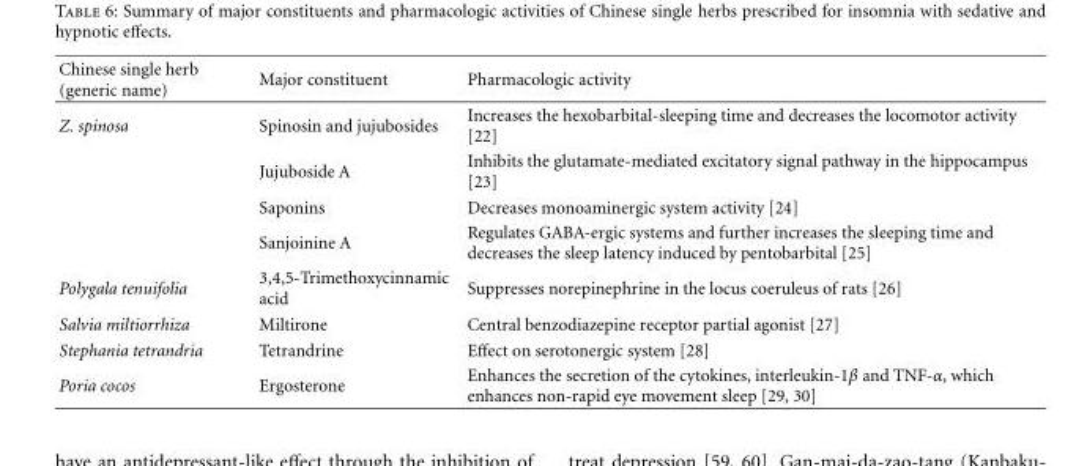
<table><thead><tr><td>Chinese single herb (generic name)</td><td>Major constituent</td><td>Pharmacologic activity</td></tr></thead><tbody><tr><td rowspan="4">Z. spinosa</td><td>Spinosin and jujubosides</td><td>Increases the hexobarbital-sleeping time and decreases the locomotor activity [22]</td></tr><tr><td>Jujuboside A</td><td>Inhibits the glutamate-mediated excitatory signal pathway in the hippocampus [23]</td></tr><tr><td>Saponins</td><td>Decreases monoaminergic system activity [24]</td></tr><tr><td>Sanjoinine A</td><td>Regulates GABA-ergic systems and further increases the sleeping time and decreases the sleep latency induced by pentobarbital [25]</td></tr><tr><td>Polygala tenuifolia</td><td>3,4,5-Trimethoxycinnamic acid</td><td>Suppresses norepinephrine in the locus coeruleus of rats [26]</td></tr><tr><td>Salvia miltiorrhiza</td><td>Miltirone</td><td>Central benzodiazepine receptor partial agonist [27]</td></tr><tr><td>Stephania tetrandria</td><td>Tetrandrine</td><td>Effect on serotonergic system [28]</td></tr><tr><td>Poria cocos</td><td>Ergosterone</td><td>Enhances the secretion of the cytokines, interleukin-1β and TNF-α, which enhances non-rapid eye movement sleep [29, 30]</td></tr></tbody></table>